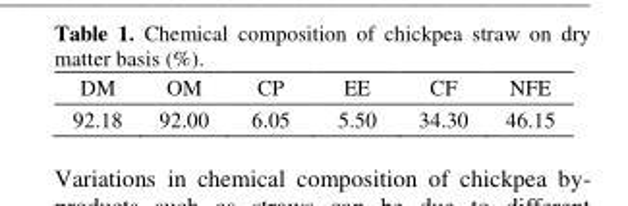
<table><thead><tr><td>DM</td><td>OM</td><td>CP</td><td>EE</td><td>CF</td><td>NFE</td></tr></thead><tbody><tr><td>92.18</td><td>92.00</td><td>6.05</td><td>5.50</td><td>34.30</td><td>46.15</td></tr></tbody></table>